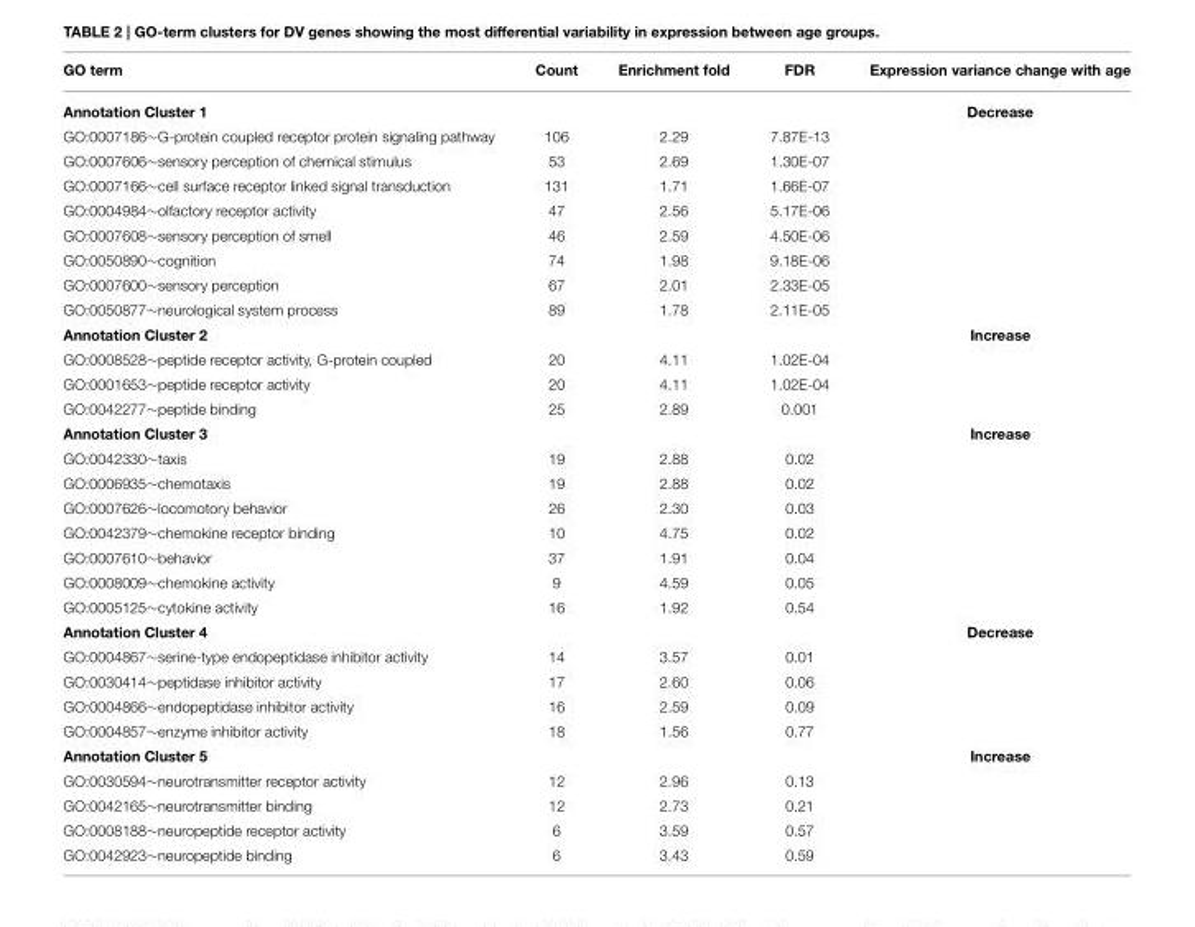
<table><thead><tr><td>GO term</td><td>Count</td><td>Enrichment fold</td><td>FDR</td><td>Expression variance change with age</td></tr></thead><tbody><tr><td colspan="4">Annotation Cluster 1</td><td>Decrease</td></tr><tr><td>GO:0007186∼G-protein coupled receptor protein signaling pathway</td><td>106</td><td>2.29</td><td>7.87E-13</td><td></td></tr><tr><td>GO:0007606∼sensory perception of chemical stimulus</td><td>53</td><td>2.69</td><td>1.30E-07</td><td></td></tr><tr><td>GO:0007166∼cell surface receptor linked signal transduction</td><td>131</td><td>1.71</td><td>1.66E-07</td><td></td></tr><tr><td>GO:0004984∼olfactory receptor activity</td><td>47</td><td>2.56</td><td>5.17E-06</td><td></td></tr><tr><td>GO:0007608∼sensory perception of smell</td><td>46</td><td>2.59</td><td>4.50E-06</td><td></td></tr><tr><td>GO:0050890∼cognition</td><td>74</td><td>1.98</td><td>9.18E-06</td><td></td></tr><tr><td>GO:0007600∼sensory perception</td><td>67</td><td>2.01</td><td>2.33E-05</td><td></td></tr><tr><td>GO:0050877∼neurological system process</td><td>89</td><td>1.78</td><td>2.11E-05</td><td></td></tr><tr><td colspan="4">Annotation Cluster 2</td><td>Increase</td></tr><tr><td>GO:0008528∼peptide receptor activity, G-protein coupled</td><td>20</td><td>4.11</td><td>1.02E-04</td><td></td></tr><tr><td>GO:0001653∼peptide receptor activity</td><td>20</td><td>4.11</td><td>1.02E-04</td><td></td></tr><tr><td>GO:0042277∼peptide binding</td><td>25</td><td>2.89</td><td>0.001</td><td></td></tr><tr><td colspan="4">Annotation Cluster 3</td><td>Increase</td></tr><tr><td>GO:0042330∼taxis</td><td>19</td><td>2.88</td><td>0.02</td><td></td></tr><tr><td>GO:0006935∼chemotaxis</td><td>19</td><td>2.88</td><td>0.02</td><td></td></tr><tr><td>GO:0007626∼locomotory behavior</td><td>26</td><td>2.30</td><td>0.03</td><td></td></tr><tr><td>GO:0042379∼chemokine receptor binding</td><td>10</td><td>4.75</td><td>0.02</td><td></td></tr><tr><td>GO:0007610∼behavior</td><td>37</td><td>1.91</td><td>0.04</td><td></td></tr><tr><td>GO:0008009∼chemokine activity</td><td>9</td><td>4.59</td><td>0.05</td><td></td></tr><tr><td>GO:0005125∼cytokine activity</td><td>16</td><td>1.92</td><td>0.54</td><td></td></tr><tr><td colspan="4">Annotation Cluster 4</td><td>Decrease</td></tr><tr><td>GO:0004867∼serine-type endopeptidase inhibitor activity</td><td>14</td><td>3.57</td><td>0.01</td><td></td></tr><tr><td>GO:0030414∼peptidase inhibitor activity</td><td>17</td><td>2.60</td><td>0.06</td><td></td></tr><tr><td>GO:0004866∼endopeptidase inhibitor activity</td><td>16</td><td>2.59</td><td>0.09</td><td></td></tr><tr><td>GO:0004857∼enzyme inhibitor activity</td><td>18</td><td>1.56</td><td>0.77</td><td></td></tr><tr><td colspan="4">Annotation Cluster 5</td><td>Increase</td></tr><tr><td>GO:0030594∼neurotransmitter receptor activity</td><td>12</td><td>2.96</td><td>0.13</td><td></td></tr><tr><td>GO:0042165∼neurotransmitter binding</td><td>12</td><td>2.73</td><td>0.21</td><td></td></tr><tr><td>GO:0008188∼neuropeptide receptor activity</td><td>6</td><td>3.59</td><td>0.57</td><td></td></tr><tr><td>GO:0042923∼neuropeptide binding</td><td>6</td><td>3.43</td><td>0.59</td><td></td></tr></tbody></table>